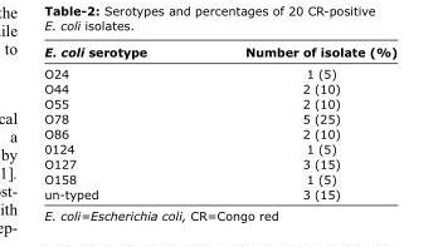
<table><thead><tr><td>E. coli serotype</td><td>Number of isolate (%)</td></tr></thead><tbody><tr><td>O24</td><td>1 (5)</td></tr><tr><td>O44</td><td>2 (10)</td></tr><tr><td>O55</td><td>2 (10)</td></tr><tr><td>O78</td><td>5 (25)</td></tr><tr><td>O86</td><td>2 (10)</td></tr><tr><td>0124</td><td>1 (5)</td></tr><tr><td>O127</td><td>3 (15)</td></tr><tr><td>O158</td><td>1 (5)</td></tr><tr><td>un-typed</td><td>3 (15)</td></tr></tbody></table>